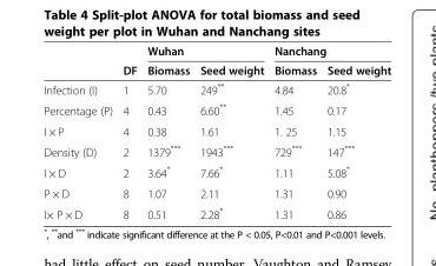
<table><thead><tr><td rowspan="2"></td><td rowspan="2">DF</td><td colspan="2">Wuhan</td><td colspan="2">Nanchang</td></tr><tr><td>Biomass</td><td>Seed weight</td><td>Biomass</td><td>Seed weight</td></tr></thead><tbody><tr><td>Infection (I)</td><td>1</td><td>5.70</td><td>249**</td><td>4.84</td><td>20.8*</td></tr><tr><td>Percentage (P)</td><td>4</td><td>0.43</td><td>6.60**</td><td>1.45</td><td>0.17</td></tr><tr><td>I × P</td><td>4</td><td>0.38</td><td>1.61</td><td>1. 25</td><td>1.15</td></tr><tr><td>Density (D)</td><td>2</td><td>1379***</td><td>1943***</td><td>729***</td><td>147***</td></tr><tr><td>I × D</td><td>2</td><td>3.64*</td><td>7.66*</td><td>1.11</td><td>5.08*</td></tr><tr><td>P × D</td><td>8</td><td>1.07</td><td>2.11</td><td>1.31</td><td>0.90</td></tr><tr><td>I× P × D</td><td>8</td><td>0.51</td><td>2.28*</td><td>1.31</td><td>0.86</td></tr></tbody></table>